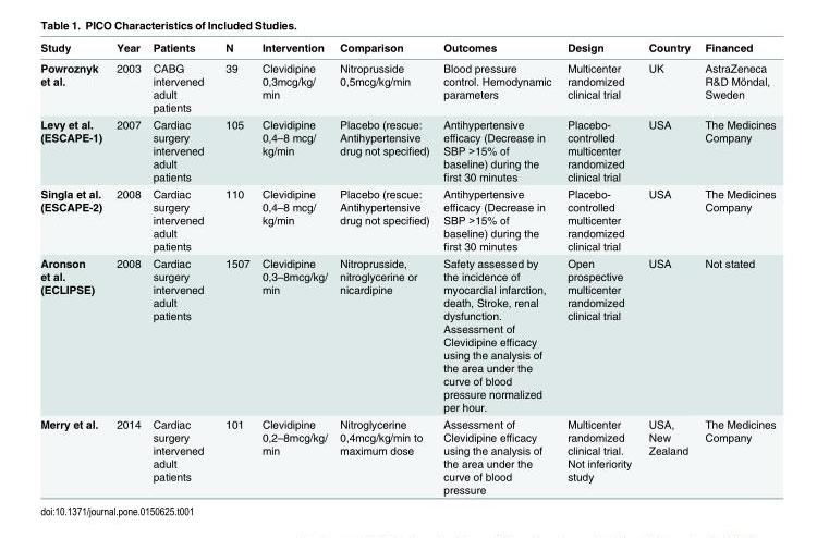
<table><thead><tr><td>Study</td><td>Year</td><td>Patients</td><td>N</td><td>Intervention</td><td>Comparison</td><td>Outcomes</td><td>Design</td><td>Country</td><td>Financed</td></tr></thead><tbody><tr><td>Powroznyk et al.</td><td>2003</td><td>CABG intervened adult patients</td><td>39</td><td>Clevidipine 0,3mcg/kg/ min</td><td>Nitroprusside 0,5mcg/kg/min</td><td>Blood pressure control. Hemodynamic parameters</td><td>Multicenter randomized clinical trial</td><td>UK</td><td>AstraZeneca R&amp;D Möndal, Sweden</td></tr><tr><td>Levy et al. (ESCAPE-1)</td><td>2007</td><td>Cardiac surgery intervened adult patients</td><td>105</td><td>Clevidipine 0,4–8 mcg/ kg/min</td><td>Placebo (rescue: Antihypertensive drug not specified)</td><td>Antihypertensive efficacy (Decrease in SBP &gt;15% of baseline) during the first 30 minutes</td><td>Placebo- controlled multicenter randomized clinical trial</td><td>USA</td><td>The Medicines Company</td></tr><tr><td>Singla et al. (ESCAPE-2)</td><td>2008</td><td>Cardiac surgery intervened adult patients</td><td>110</td><td>Clevidipine 0,4–8 mcg/ kg/min</td><td>Placebo (rescue: Antihypertensive drug not specified)</td><td>Antihypertensive efficacy (Decrease in SBP &gt;15% of baseline) during the first 30 minutes</td><td>Placebo- controlled multicenter randomized clinical trial</td><td>USA</td><td>The Medicines Company</td></tr><tr><td>Aronson et al. (ECLIPSE)</td><td>2008</td><td>Cardiac surgery intervened adult patients</td><td>1507</td><td>Clevidipine 0,3–8mcg/kg/ min</td><td>Nitroprusside, nitroglycerine or nicardipine</td><td>Safety assessed by the incidence of myocardial infarction, death, Stroke, renal dysfunction. Assessment of Clevidipine efficacy using the analysis of the area under the curve of blood pressure normalized per hour.</td><td>Open prospective multicenter randomized clinical trial</td><td>USA</td><td>Not stated</td></tr><tr><td>Merry et al.</td><td>2014</td><td>Cardiac surgery intervened adult patients</td><td>101</td><td>Clevidipine 0,2–8mcg/kg/ min</td><td>Nitroglycerine 0,4mcg/kg/min to maximum dose</td><td>Assessment of Clevidipine efficacy using the analysis of the area under the curve of blood pressure</td><td>Multicenter randomized clinical trial. Not inferiority study</td><td>USA, New Zealand</td><td>The Medicines Company</td></tr></tbody></table>